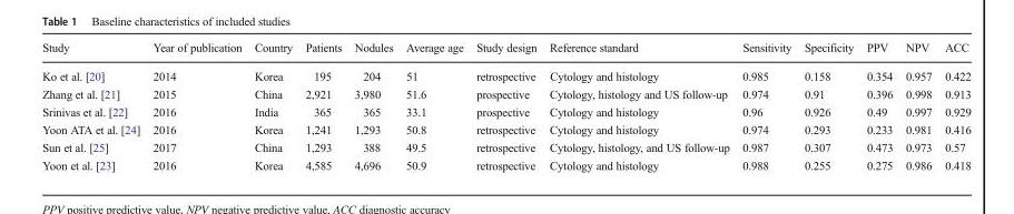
<table><thead><tr><td>Study</td><td>Year of publication</td><td>Country</td><td>Patients</td><td>Nodules</td><td>Average age</td><td>Study design</td><td>Reference standard</td><td>Sensitivity</td><td>Specificity</td><td>PPV</td><td>NPV</td><td>ACC</td></tr></thead><tbody><tr><td>Ko et al. [20]</td><td>2014</td><td>Korea</td><td>195</td><td>204</td><td>51</td><td>retrospective</td><td>Cytology and histology</td><td>0.985</td><td>0.158</td><td>0.354</td><td>0.957</td><td>0.422</td></tr><tr><td>Zhang et al. [21]</td><td>2015</td><td>China</td><td>2,921</td><td>3,980</td><td>51.6</td><td>prospective</td><td>Cytology, histology and US follow-up</td><td>0.974</td><td>0.91</td><td>0.396</td><td>0.998</td><td>0.913</td></tr><tr><td>Srinivas et al. [22]</td><td>2016</td><td>India</td><td>365</td><td>365</td><td>33.1</td><td>prospective</td><td>Cytology and histology</td><td>0.96</td><td>0.926</td><td>0.49</td><td>0.997</td><td>0.929</td></tr><tr><td>Yoon ATA et al. [24]</td><td>2016</td><td>Korea</td><td>1,241</td><td>1,293</td><td>50.8</td><td>retrospective</td><td>Cytology and histology</td><td>0.974</td><td>0.293</td><td>0.233</td><td>0.981</td><td>0.416</td></tr><tr><td>Sun et al. [25]</td><td>2017</td><td>China</td><td>1,293</td><td>388</td><td>49.5</td><td>retrospective</td><td>Cytology, histology, and US follow-up</td><td>0.987</td><td>0.307</td><td>0.473</td><td>0.973</td><td>0.57</td></tr><tr><td>Yoon et al. [23]</td><td>2016</td><td>Korea</td><td>4,585</td><td>4,696</td><td>50.9</td><td>retrospective</td><td>Cytology and histology</td><td>0.988</td><td>0.255</td><td>0.275</td><td>0.986</td><td>0.418</td></tr></tbody></table>